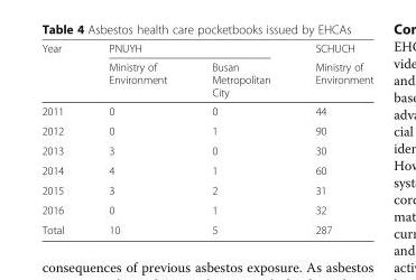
<table><thead><tr><td rowspan="2">Year</td><td colspan="2">PNUYH</td><td rowspan="2">SCHUCH Ministry of Environment</td></tr><tr><td>Ministry of Environment</td><td>Busan Metropolitan City</td></tr></thead><tbody><tr><td>2011</td><td>0</td><td>0</td><td>44</td></tr><tr><td>2012</td><td>0</td><td>1</td><td>90</td></tr><tr><td>2013</td><td>3</td><td>0</td><td>30</td></tr><tr><td>2014</td><td>4</td><td>1</td><td>60</td></tr><tr><td>2015</td><td>3</td><td>2</td><td>31</td></tr><tr><td>2016</td><td>0</td><td>1</td><td>32</td></tr><tr><td>Total</td><td>10</td><td>5</td><td>287</td></tr></tbody></table>